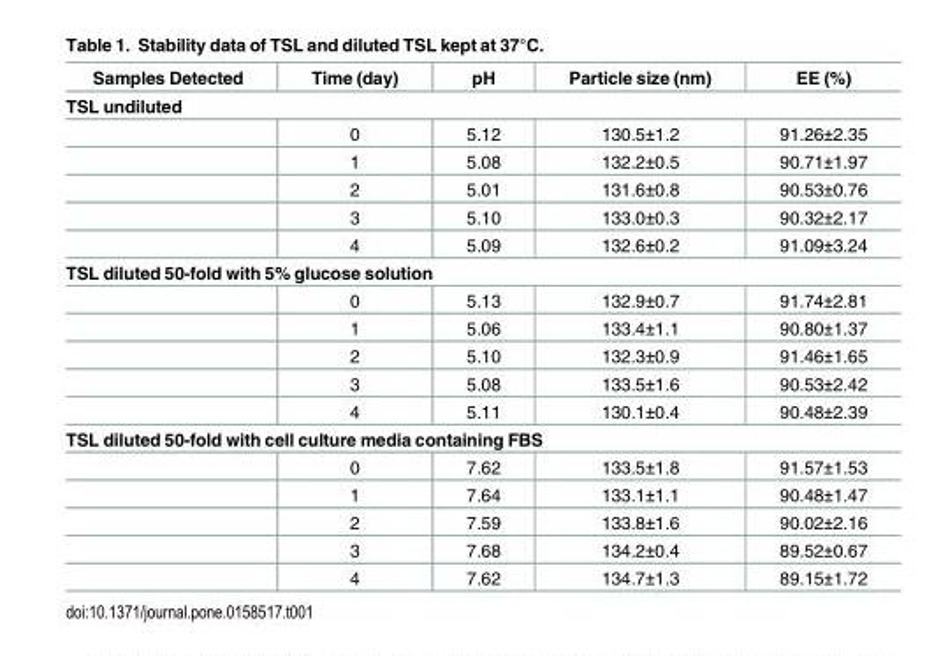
<table><thead><tr><td>Samples Detected</td><td>Time (day)</td><td>pH</td><td>Particle size (nm)</td><td>EE (%)</td></tr></thead><tbody><tr><td colspan="5">TSL undiluted</td></tr><tr><td></td><td>0</td><td>5.12</td><td>130.5±1.2</td><td>91.26±2.35</td></tr><tr><td></td><td>1</td><td>5.08</td><td>132.2±0.5</td><td>90.71±1.97</td></tr><tr><td></td><td>2</td><td>5.01</td><td>131.6±0.8</td><td>90.53±0.76</td></tr><tr><td></td><td>3</td><td>5.10</td><td>133.0±0.3</td><td>90.32±2.17</td></tr><tr><td></td><td>4</td><td>5.09</td><td>132.6±0.2</td><td>91.09±3.24</td></tr><tr><td colspan="5">TSL diluted 50-fold with 5% glucose solution</td></tr><tr><td></td><td>0</td><td>5.13</td><td>132.9±0.7</td><td>91.74±2.81</td></tr><tr><td></td><td>1</td><td>5.06</td><td>133.4±1.1</td><td>90.80±1.37</td></tr><tr><td></td><td>2</td><td>5.10</td><td>132.3±0.9</td><td>91.46±1.65</td></tr><tr><td></td><td>3</td><td>5.08</td><td>133.5±1.6</td><td>90.53±2.42</td></tr><tr><td></td><td>4</td><td>5.11</td><td>130.1±0.4</td><td>90.48±2.39</td></tr><tr><td colspan="5">TSL diluted 50-fold with cell culture media containing FBS</td></tr><tr><td></td><td>0</td><td>7.62</td><td>133.5±1.8</td><td>91.57±1.53</td></tr><tr><td></td><td>1</td><td>7.64</td><td>133.1±1.1</td><td>90.48±1.47</td></tr><tr><td></td><td>2</td><td>7.59</td><td>133.8±1.6</td><td>90.02±2.16</td></tr><tr><td></td><td>3</td><td>7.68</td><td>134.2±0.4</td><td>89.52±0.67</td></tr><tr><td></td><td>4</td><td>7.62</td><td>134.7±1.3</td><td>89.15±1.72</td></tr></tbody></table>